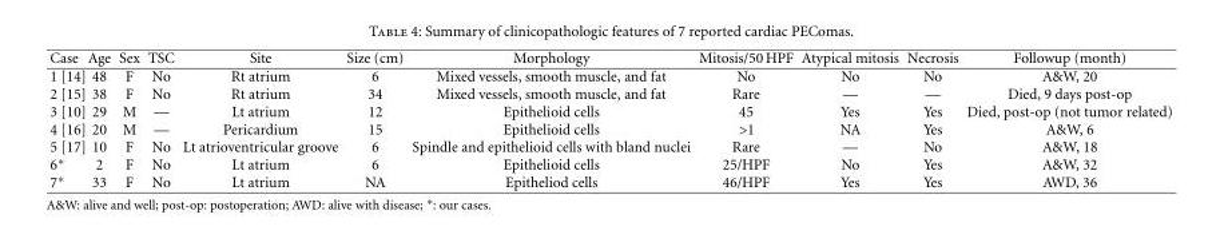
<table><thead><tr><td>Case</td><td>Age</td><td>Sex</td><td>TSC</td><td>Site</td><td>Size (cm)</td><td>Morphology</td><td>Mitosis/50 HPF</td><td>Atypical mitosis</td><td>Necrosis</td><td>Followup (month)</td></tr></thead><tbody><tr><td>1 [14]</td><td>48</td><td>F</td><td>No</td><td>Rt atrium</td><td>6</td><td>Mixed vessels, smooth muscle, and fat</td><td>No</td><td>No</td><td>No</td><td>A&amp;W, 20</td></tr><tr><td>2 [15]</td><td>38</td><td>F</td><td>No</td><td>Rt atrium</td><td>34</td><td>Mixed vessels, smooth muscle, and fat</td><td>Rare</td><td>—</td><td>—</td><td>Died, 9 days post-op</td></tr><tr><td>3 [10]</td><td>29</td><td>M</td><td>—</td><td>Lt atrium</td><td>12</td><td>Epithelioid cells</td><td>45</td><td>Yes</td><td>Yes</td><td>Died, post-op (not tumor related)</td></tr><tr><td>4 [16]</td><td>20</td><td>M</td><td>—</td><td>Pericardium</td><td>15</td><td>Epithelioid cells</td><td>&gt;1</td><td>NA</td><td>Yes</td><td>A&amp;W, 6</td></tr><tr><td>5 [17]</td><td>10</td><td>F</td><td>No</td><td>Lt atrioventricular groove</td><td>6</td><td>Spindle and epithelioid cells with bland nuclei</td><td>Rare</td><td>—</td><td>No</td><td>A&amp;W, 18</td></tr><tr><td>6∗</td><td>2</td><td>F</td><td>No</td><td>Lt atrium</td><td>6</td><td>Epithelioid cells</td><td>25/HPF</td><td>No</td><td>Yes</td><td>A&amp;W, 32</td></tr><tr><td>7∗</td><td>33</td><td>F</td><td>No</td><td>Lt atrium</td><td>NA</td><td>Epitheliod cells</td><td>46/HPF</td><td>Yes</td><td>Yes</td><td>AWD, 36</td></tr></tbody></table>